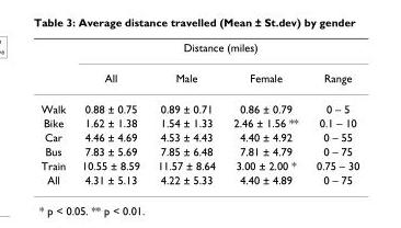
<table><thead><tr><td rowspan="2"></td><td colspan="4">Distance (miles)</td></tr><tr><td>All</td><td>Male</td><td>Female</td><td>Range</td></tr></thead><tbody><tr><td>Walk</td><td>0.88 ± 0.75</td><td>0.89 ± 0.71</td><td>0.86 ± 0.79</td><td>0 – 5</td></tr><tr><td>Bike</td><td>1.62 ± 1.38</td><td>1.54 ± 1.33</td><td>2.46 ± 1.56 **</td><td>0.1 – 10</td></tr><tr><td>Car</td><td>4.46 ± 4.69</td><td>4.53 ± 4.43</td><td>4.40 ± 4.92</td><td>0 – 55</td></tr><tr><td>Bus</td><td>7.83 ± 5.69</td><td>7.85 ± 6.48</td><td>7.81 ± 4.79</td><td>0 – 75</td></tr><tr><td>Train</td><td>10.55 ± 8.59</td><td>11.57 ± 8.64</td><td>3.00 ± 2.00 *</td><td>0.75 – 30</td></tr><tr><td>All</td><td>4.31 ± 5.13</td><td>4.22 ± 5.33</td><td>4.40 ± 4.89</td><td>0 – 75</td></tr></tbody></table>